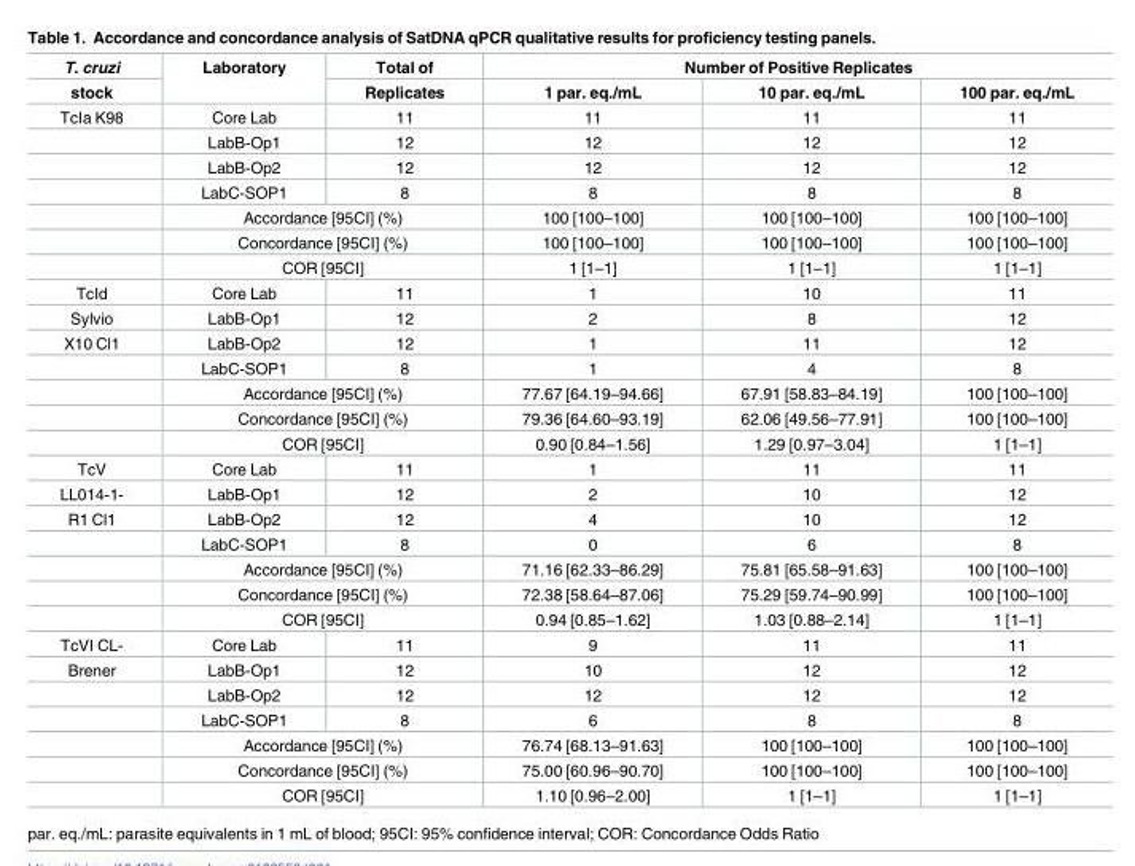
<table><thead><tr><td rowspan="2">T. cruzi stock</td><td rowspan="2">Laboratory</td><td rowspan="2">Total of Replicates</td><td colspan="3">Number of Positive Replicates</td></tr><tr><td>1 par. eq./mL</td><td>10 par. eq./mL</td><td>100 par. eq./mL</td></tr></thead><tbody><tr><td rowspan="7">TcIa K98</td><td>Core Lab</td><td>11</td><td>11</td><td>11</td><td>11</td></tr><tr><td>LabB-Op1</td><td>12</td><td>12</td><td>12</td><td>12</td></tr><tr><td>LabB-Op2</td><td>12</td><td>12</td><td>12</td><td>12</td></tr><tr><td>LabC-SOP1</td><td>8</td><td>8</td><td>8</td><td>8</td></tr><tr><td colspan="2">Accordance [95CI] (%)</td><td>100 [100–100]</td><td>100 [100–100]</td><td>100 [100–100]</td></tr><tr><td colspan="2">Concordance [95CI] (%)</td><td>100 [100–100]</td><td>100 [100–100]</td><td>100 [100–100]</td></tr><tr><td colspan="2">COR [95CI]</td><td>1 [1–1]</td><td>1 [1–1]</td><td>1 [1–1]</td></tr><tr><td>TcId</td><td>Core Lab</td><td>11</td><td>1</td><td>10</td><td>11</td></tr><tr><td>Sylvio</td><td>LabB-Op1</td><td>12</td><td>2</td><td>8</td><td>12</td></tr><tr><td rowspan="5">X10 Cl1</td><td>LabB-Op2</td><td>12</td><td>1</td><td>11</td><td>12</td></tr><tr><td>LabC-SOP1</td><td>8</td><td>1</td><td>4</td><td>8</td></tr><tr><td colspan="2">Accordance [95CI] (%)</td><td>77.67 [64.19–94.66]</td><td>67.91 [58.83–84.19]</td><td>100 [100–100]</td></tr><tr><td colspan="2">Concordance [95CI] (%)</td><td>79.36 [64.60–93.19]</td><td>62.06 [49.56–77.91]</td><td>100 [100–100]</td></tr><tr><td colspan="2">COR [95CI]</td><td>0.90 [0.84–1.56]</td><td>1.29 [0.97–3.04]</td><td>1 [1–1]</td></tr><tr><td>TcV</td><td>Core Lab</td><td>11</td><td>1</td><td>11</td><td>11</td></tr><tr><td>LL014-1-</td><td>LabB-Op1</td><td>12</td><td>2</td><td>10</td><td>12</td></tr><tr><td rowspan="5">R1 Cl1</td><td>LabB-Op2</td><td>12</td><td>4</td><td>10</td><td>12</td></tr><tr><td>LabC-SOP1</td><td>8</td><td>0</td><td>6</td><td>8</td></tr><tr><td colspan="2">Accordance [95CI] (%)</td><td>71.16 [62.33–86.29]</td><td>75.81 [65.58–91.63]</td><td>100 [100–100]</td></tr><tr><td colspan="2">Concordance [95CI] (%)</td><td>72.38 [58.64–87.06]</td><td>75.29 [59.74–90.99]</td><td>100 [100–100]</td></tr><tr><td colspan="2">COR [95CI]</td><td>0.94 [0.85–1.62]</td><td>1.03 [0.88–2.14]</td><td>1 [1–1]</td></tr><tr><td>TcVI CL-</td><td>Core Lab</td><td>11</td><td>9</td><td>11</td><td>11</td></tr><tr><td rowspan="6">Brener</td><td>LabB-Op1</td><td>12</td><td>10</td><td>12</td><td>12</td></tr><tr><td>LabB-Op2</td><td>12</td><td>12</td><td>12</td><td>12</td></tr><tr><td>LabC-SOP1</td><td>8</td><td>6</td><td>8</td><td>8</td></tr><tr><td colspan="2">Accordance [95CI] (%)</td><td>76.74 [68.13–91.63]</td><td>100 [100–100]</td><td>100 [100–100]</td></tr><tr><td colspan="2">Concordance [95CI] (%)</td><td>75.00 [60.96–90.70]</td><td>100 [100–100]</td><td>100 [100–100]</td></tr><tr><td colspan="2">COR [95CI]</td><td>1.10 [0.96–2.00]</td><td>1 [1–1]</td><td>1 [1–1]</td></tr></tbody></table>